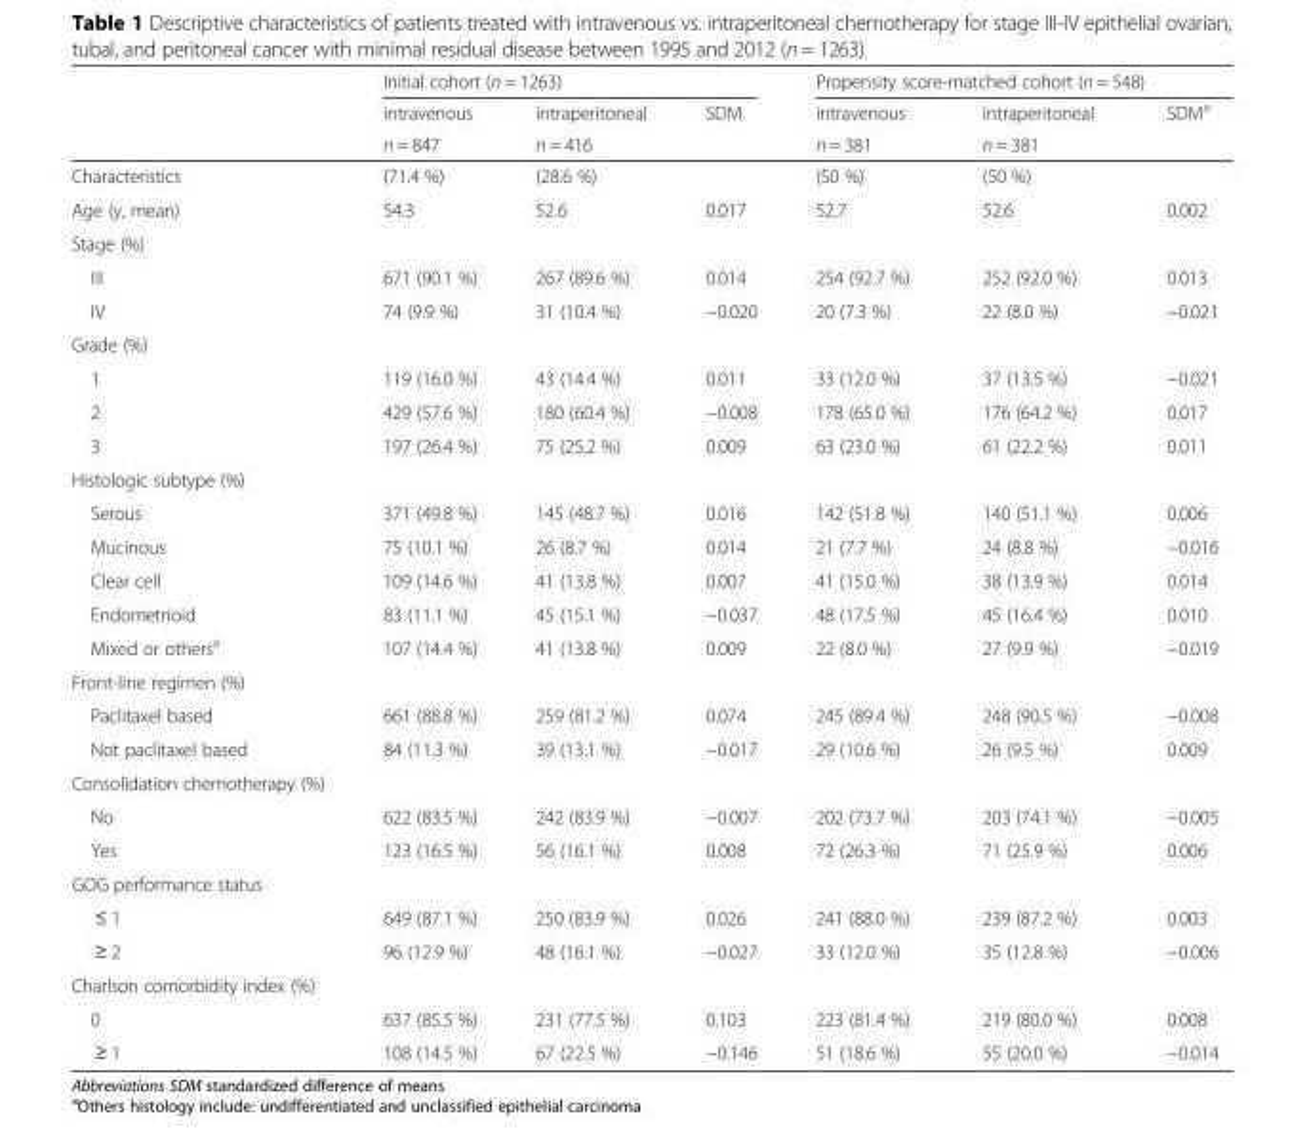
<table><thead><tr><td rowspan="3"></td><td colspan="3">Initial cohort (n = 1263)</td><td colspan="3">Propensity score-matched cohort (n = 548)</td></tr><tr><td rowspan="2">intravenous n = 847</td><td rowspan="2">intraperitoneal n = 416</td><td rowspan="2">SDM</td><td rowspan="2">intravenous n = 381</td><td rowspan="2">intraperitoneal n = 381</td><td rowspan="2">SDM<sup>a</sup></td></tr><tr></tr></thead><tbody><tr><td>Characteristics</td><td>(71.4 %)</td><td>(28.6 %)</td><td></td><td>(50 %)</td><td>(50 %)</td><td></td></tr><tr><td>Age (y, mean)</td><td>54.3</td><td>52.6</td><td>0.017</td><td>52.7</td><td>52.6</td><td>0.002</td></tr><tr><td colspan="7">Stage (%)</td></tr><tr><td>III</td><td>671 (90.1 %)</td><td>267 (89.6 %)</td><td>0.014</td><td>254 (92.7 %)</td><td>252 (92.0 %)</td><td>0.013</td></tr><tr><td>IV</td><td>74 (9.9 %)</td><td>31 (10.4 %)</td><td>−0.020</td><td>20 (7.3 %)</td><td>22 (8.0 %)</td><td>−0.021</td></tr><tr><td colspan="7">Grade (%)</td></tr><tr><td>1</td><td>119 (16.0 %)</td><td>43 (14.4 %)</td><td>0.011</td><td>33 (12.0 %)</td><td>37 (13.5 %)</td><td>−0.021</td></tr><tr><td>2</td><td>429 (57.6 %)</td><td>180 (60.4 %)</td><td>−0.008</td><td>178 (65.0 %)</td><td>176 (64.2 %)</td><td>0.017</td></tr><tr><td>3</td><td>197 (26.4 %)</td><td>75 (25.2 %)</td><td>0.009</td><td>63 (23.0 %)</td><td>61 (22.2 %)</td><td>0.011</td></tr><tr><td colspan="7">Histologic subtype (%)</td></tr><tr><td>Serous</td><td>371 (49.8 %)</td><td>145 (48.7 %)</td><td>0.016</td><td>142 (51.8 %)</td><td>140 (51.1 %)</td><td>0.006</td></tr><tr><td>Mucinous</td><td>75 (10.1 %)</td><td>26 (8.7 %)</td><td>0.014</td><td>21 (7.7 %)</td><td>24 (8.8 %)</td><td>−0.016</td></tr><tr><td>Clear cell</td><td>109 (14.6 %)</td><td>41 (13.8 %)</td><td>0.007</td><td>41 (15.0 %)</td><td>38 (13.9 %)</td><td>0.014</td></tr><tr><td>Endometrioid</td><td>83 (11.1 %)</td><td>45 (15.1 %)</td><td>−0.037</td><td>48 (17.5 %)</td><td>45 (16.4 %)</td><td>0.010</td></tr><tr><td>Mixed or others<sup>a</sup></td><td>107 (14.4 %)</td><td>41 (13.8 %)</td><td>0.009</td><td>22 (8.0 %)</td><td>27 (9.9 %)</td><td>−0.019</td></tr><tr><td colspan="7">Front-line regimen (%)</td></tr><tr><td>Paclitaxel based</td><td>661 (88.8 %)</td><td>259 (81.2 %)</td><td>0.074</td><td>245 (89.4 %)</td><td>248 (90.5 %)</td><td>−0.008</td></tr><tr><td>Not paclitaxel based</td><td>84 (11.3 %)</td><td>39 (13.1 %)</td><td>−0.017</td><td>29 (10.6 %)</td><td>26 (9.5 %)</td><td>0.009</td></tr><tr><td colspan="7">Consolidation chemotherapy (%)</td></tr><tr><td>No</td><td>622 (83.5 %)</td><td>242 (83.9 %)</td><td>−0.007</td><td>202 (73.7 %)</td><td>203 (74.1 %)</td><td>−0.005</td></tr><tr><td>Yes</td><td>123 (16.5 %)</td><td>56 (16.1 %)</td><td>0.008</td><td>72 (26.3 %)</td><td>71 (25.9 %)</td><td>0.006</td></tr><tr><td colspan="7">GOG performance status</td></tr><tr><td>≤ 1</td><td>649 (87.1 %)</td><td>250 (83.9 %)</td><td>0.026</td><td>241 (88.0 %)</td><td>239 (87.2 %)</td><td>0.003</td></tr><tr><td>≥ 2</td><td>96 (12.9 %)</td><td>48 (16.1 %)</td><td>−0.027</td><td>33 (12.0 %)</td><td>35 (12.8 %)</td><td>−0.006</td></tr><tr><td colspan="7">Charlson comorbidity index (%)</td></tr><tr><td>0</td><td>637 (85.5 %)</td><td>231 (77.5 %)</td><td>0.103</td><td>223 (81.4 %)</td><td>219 (80.0 %)</td><td>0.008</td></tr><tr><td>≥ 1</td><td>108 (14.5 %)</td><td>67 (22.5 %)</td><td>−0.146</td><td>51 (18.6 %)</td><td>55 (20.0 %)</td><td>−0.014</td></tr></tbody></table>